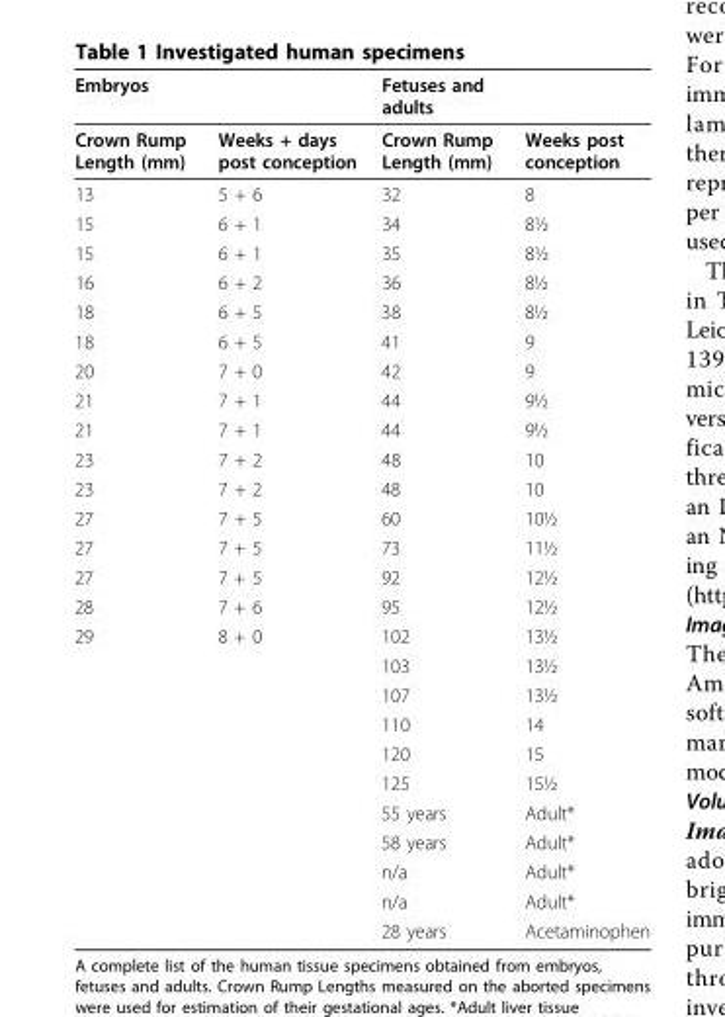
<table><thead><tr><td>Embryos</td><td></td><td>Fetuses and adults</td><td></td></tr></thead><tbody><tr><td>Crown Rump Length (mm)</td><td>Weeks + days post conception</td><td>Crown Rump Length (mm)</td><td>Weeks post conception</td></tr><tr><td>13</td><td>5 + 6</td><td>32</td><td>8</td></tr><tr><td>15</td><td>6 + 1</td><td>34</td><td>8½</td></tr><tr><td>15</td><td>6 + 1</td><td>35</td><td>8½</td></tr><tr><td>16</td><td>6 + 2</td><td>36</td><td>8½</td></tr><tr><td>18</td><td>6 + 5</td><td>38</td><td>8½</td></tr><tr><td>18</td><td>6 + 5</td><td>41</td><td>9</td></tr><tr><td>20</td><td>7 + 0</td><td>42</td><td>9</td></tr><tr><td>21</td><td>7 + 1</td><td>44</td><td>9½</td></tr><tr><td>21</td><td>7 + 1</td><td>44</td><td>9½</td></tr><tr><td>23</td><td>7 + 2</td><td>48</td><td>10</td></tr><tr><td>23</td><td>7 + 2</td><td>48</td><td>10</td></tr><tr><td>27</td><td>7 + 5</td><td>60</td><td>10½</td></tr><tr><td>27</td><td>7 + 5</td><td>73</td><td>11½</td></tr><tr><td>27</td><td>7 + 5</td><td>92</td><td>12½</td></tr><tr><td>28</td><td>7 + 6</td><td>95</td><td>12½</td></tr><tr><td rowspan="11">29</td><td>8 + 0</td><td>102</td><td>13½</td></tr><tr><td></td><td>103</td><td>13½</td></tr><tr><td></td><td>107</td><td>13½</td></tr><tr><td></td><td>110</td><td>14</td></tr><tr><td></td><td>120</td><td>15</td></tr><tr><td></td><td>125</td><td>15½</td></tr><tr><td></td><td>55 years</td><td>Adult*</td></tr><tr><td></td><td>58 years</td><td>Adult*</td></tr><tr><td></td><td>n/a</td><td>Adult*</td></tr><tr><td></td><td>n/a</td><td>Adult*</td></tr><tr><td></td><td>28 years</td><td>Acetaminophen</td></tr></tbody></table>